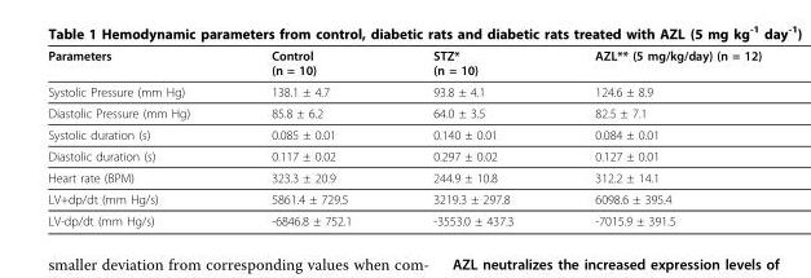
<table><thead><tr><td>Parameters</td><td>Control (n = 10)</td><td>STZ* (n = 10)</td><td>AZL** (5 mg/kg/day) (n = 12)</td></tr></thead><tbody><tr><td>Systolic Pressure (mm Hg)</td><td>138.1 ± 4.7</td><td>93.8 ± 4.1</td><td>124.6 ± 8.9</td></tr><tr><td>Diastolic Pressure (mm Hg)</td><td>85.8 ± 6.2</td><td>64.0 ± 3.5</td><td>82.5 ± 7.1</td></tr><tr><td>Systolic duration (s)</td><td>0.085 ± 0.01</td><td>0.140 ± 0.01</td><td>0.084 ± 0.01</td></tr><tr><td>Diastolic duration (s)</td><td>0.117 ± 0.02</td><td>0.297 ± 0.02</td><td>0.127 ± 0.01</td></tr><tr><td>Heart rate (BPM)</td><td>323.3 ± 20.9</td><td>244.9 ± 10.8</td><td>312.2 ± 14.1</td></tr><tr><td>LV+dp/dt (mm Hg/s)</td><td>5861.4 ± 729.5</td><td>3219.3 ± 297.8</td><td>6098.6 ± 395.4</td></tr><tr><td>LV-dp/dt (mm Hg/s)</td><td>-6846.8 ± 752.1</td><td>-3553.0 ± 437.3</td><td>-7015.9 ± 391.5</td></tr></tbody></table>